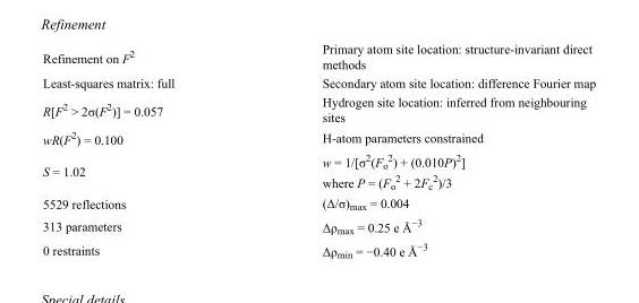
<table><tbody><tr><td>Refinement on F<sup>2</sup></td><td>Primary atom site location: structure-invariant direct methods</td></tr><tr><td>Least-squares matrix: full</td><td>Secondary atom site location: difference Fourier map</td></tr><tr><td>R[F<sup>2</sup> &gt; 2σ(F<sup>2</sup>)] = 0.057</td><td>Hydrogen site location: inferred from neighbouring sites</td></tr><tr><td>wR(F<sup>2</sup>) = 0.100</td><td>H-atom parameters constrained</td></tr><tr><td>S = 1.02</td><td>w = 1/[σ<sup>2</sup>(F<sub>o</sub> <sup>2</sup>) + (0.010P)<sup>2</sup>] where P = (F<sub>o</sub> <sup>2</sup> + 2F<sub>c</sub> <sup>2</sup>)/3</td></tr><tr><td>5529 reflections</td><td>(Δ/σ)<sub>max</sub> = 0.004</td></tr><tr><td>313 parameters</td><td>Δρ<sub>max</sub> = 0.25 e Å<sup>−3</sup></td></tr><tr><td>0 restraints</td><td>Δρ<sub>min</sub> = −0.40 e Å<sup>−3</sup></td></tr></tbody></table>